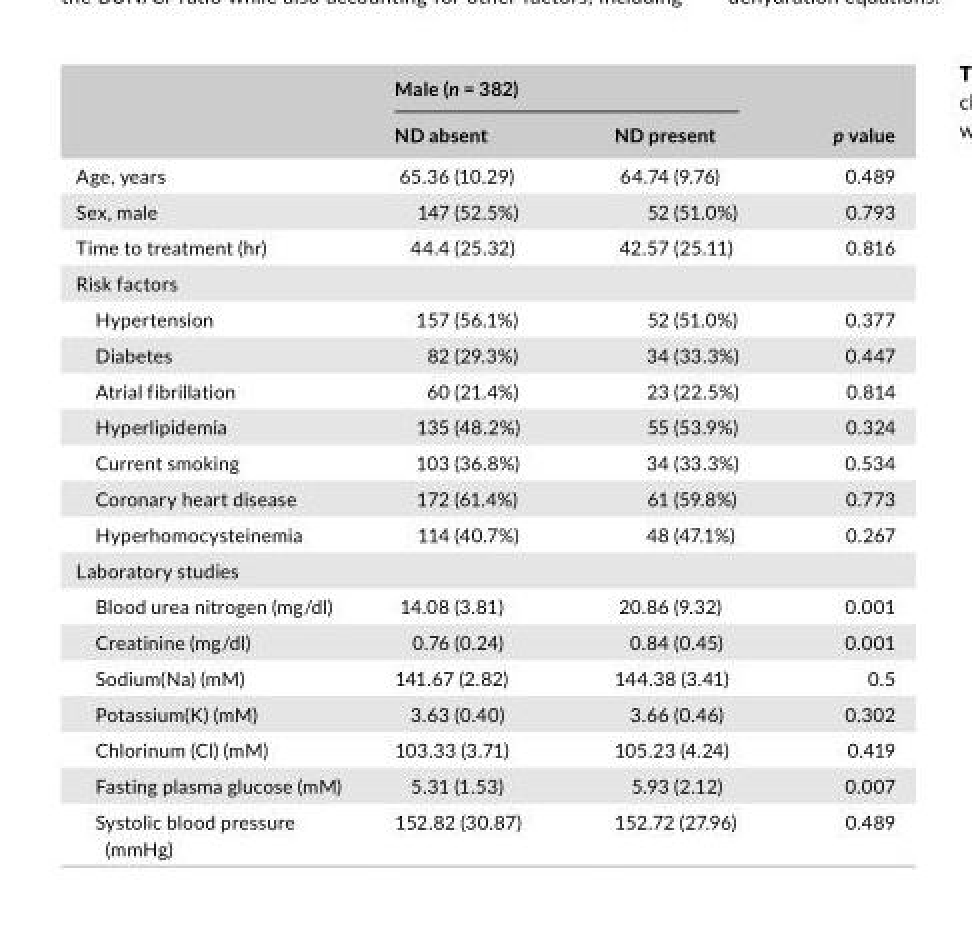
<table><thead><tr><td rowspan="2"></td><td colspan="2">Male (n = 382)</td><td rowspan="2">p value</td></tr><tr><td>ND absent</td><td>ND present</td></tr></thead><tbody><tr><td>Age, years</td><td>65.36 (10.29)</td><td>64.74 (9.76)</td><td>0.489</td></tr><tr><td>Sex, male</td><td>147 (52.5%)</td><td>52 (51.0%)</td><td>0.793</td></tr><tr><td>Time to treatment (hr)</td><td>44.4 (25.32)</td><td>42.57 (25.11)</td><td>0.816</td></tr><tr><td colspan="4">Risk factors</td></tr><tr><td>Hypertension</td><td>157 (56.1%)</td><td>52 (51.0%)</td><td>0.377</td></tr><tr><td>Diabetes</td><td>82 (29.3%)</td><td>34 (33.3%)</td><td>0.447</td></tr><tr><td>Atrial fibrillation</td><td>60 (21.4%)</td><td>23 (22.5%)</td><td>0.814</td></tr><tr><td>Hyperlipidemia</td><td>135 (48.2%)</td><td>55 (53.9%)</td><td>0.324</td></tr><tr><td>Current smoking</td><td>103 (36.8%)</td><td>34 (33.3%)</td><td>0.534</td></tr><tr><td>Coronary heart disease</td><td>172 (61.4%)</td><td>61 (59.8%)</td><td>0.773</td></tr><tr><td>Hyperhomocysteinemia</td><td>114 (40.7%)</td><td>48 (47.1%)</td><td>0.267</td></tr><tr><td colspan="4">Laboratory studies</td></tr><tr><td>Blood urea nitrogen (mg/dl)</td><td>14.08 (3.81)</td><td>20.86 (9.32)</td><td>0.001</td></tr><tr><td>Creatinine (mg/dl)</td><td>0.76 (0.24)</td><td>0.84 (0.45)</td><td>0.001</td></tr><tr><td>Sodium(Na) (mM)</td><td>141.67 (2.82)</td><td>144.38 (3.41)</td><td>0.5</td></tr><tr><td>Potassium(K) (mM)</td><td>3.63 (0.40)</td><td>3.66 (0.46)</td><td>0.302</td></tr><tr><td>Chlorinum (Cl) (mM)</td><td>103.33 (3.71)</td><td>105.23 (4.24)</td><td>0.419</td></tr><tr><td>Fasting plasma glucose (mM)</td><td>5.31 (1.53)</td><td>5.93 (2.12)</td><td>0.007</td></tr><tr><td>Systolic blood pressure (mmHg)</td><td>152.82 (30.87)</td><td>152.72 (27.96)</td><td>0.489</td></tr></tbody></table>